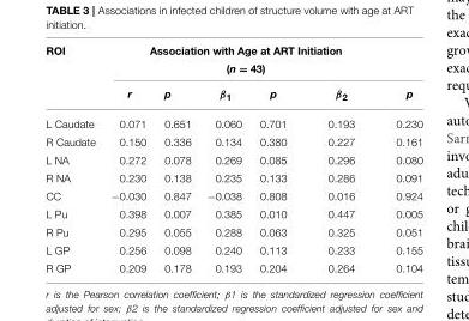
<table><thead><tr><td rowspan="2">ROI</td><td colspan="5">Association with Age at ART Initiation (n = 43)</td><td rowspan="2">p</td></tr><tr><td>r</td><td>p</td><td>β<sub>1</sub></td><td>p</td><td>β<sub>2</sub></td></tr></thead><tbody><tr><td>L Caudate</td><td>0.071</td><td>0.651</td><td>0.060</td><td>0.701</td><td>0.193</td><td>0.230</td></tr><tr><td>R Caudate</td><td>0.150</td><td>0.336</td><td>0.134</td><td>0.380</td><td>0.227</td><td>0.161</td></tr><tr><td>L NA</td><td>0.272</td><td>0.078</td><td>0.269</td><td>0.085</td><td>0.296</td><td>0.080</td></tr><tr><td>R NA</td><td>0.230</td><td>0.138</td><td>0.235</td><td>0.133</td><td>0.286</td><td>0.091</td></tr><tr><td>CC</td><td>−0.030</td><td>0.847</td><td>−0.038</td><td>0.808</td><td>0.016</td><td>0.924</td></tr><tr><td>L Pu</td><td>0.398</td><td>0.007</td><td>0.385</td><td>0.010</td><td>0.447</td><td>0.005</td></tr><tr><td>R Pu</td><td>0.295</td><td>0.055</td><td>0.288</td><td>0.063</td><td>0.325</td><td>0.051</td></tr><tr><td>L GP</td><td>0.256</td><td>0.098</td><td>0.240</td><td>0.113</td><td>0.233</td><td>0.155</td></tr><tr><td>R GP</td><td>0.209</td><td>0.178</td><td>0.193</td><td>0.204</td><td>0.264</td><td>0.104</td></tr></tbody></table>